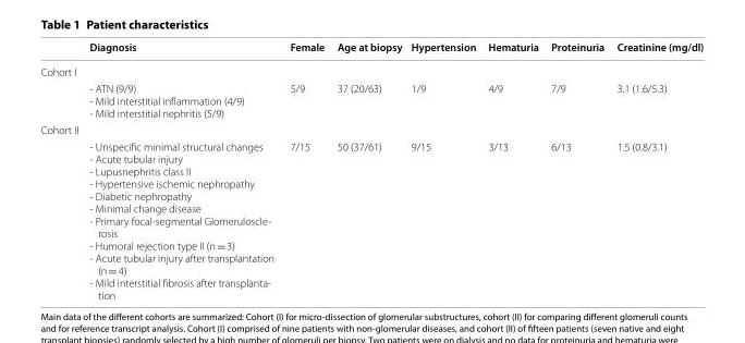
<table><thead><tr><td></td><td>Diagnosis</td><td>Female</td><td>Age at biopsy</td><td>Hypertension</td><td>Hematuria</td><td>Proteinuria</td><td>Creatinine (mg/dl)</td></tr></thead><tbody><tr><td colspan="8">Cohort I</td></tr><tr><td></td><td>- ATN (9/9) - Mild interstitial inflammation (4/9) - Mild interstitial nephritis (5/9)</td><td>5/9</td><td>37 (20/63)</td><td>1/9</td><td>4/9</td><td>7/9</td><td>3.1 (1.6/5.3)</td></tr><tr><td colspan="8">Cohort II</td></tr><tr><td></td><td>- Unspecific minimal structural changes - Acute tubular injury - Lupusnephritis class II - Hypertensive ischemic nephropathy - Diabetic nephropathy - Minimal change disease - Primary focal-segmental Glomeruloscle- rosis - Humoral rejection type II (n = 3) - Acute tubular injury after transplantation (n = 4) - Mild interstitial fibrosis after transplanta- tion</td><td>7/15</td><td>50 (37/61)</td><td>9/15</td><td>3/13</td><td>6/13</td><td>1.5 (0.8/3.1)</td></tr></tbody></table>